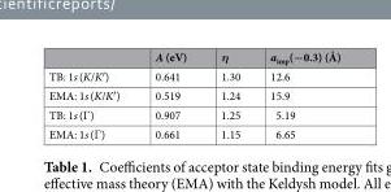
<table><thead><tr><td></td><td>A (eV)</td><td>η</td><td>a<sub>imp</sub>(−0.3) (Å)</td></tr></thead><tbody><tr><td>TB: 1s (K/K′)</td><td>0.641</td><td>1.30</td><td>12.6</td></tr><tr><td>EMA: 1s (K/K′)</td><td>0.519</td><td>1.24</td><td>15.9</td></tr><tr><td>TB: 1s (Γ)</td><td>0.907</td><td>1.25</td><td>5.19</td></tr><tr><td>EMA: 1s (Γ)</td><td>0.661</td><td>1.15</td><td>6.65</td></tr></tbody></table>